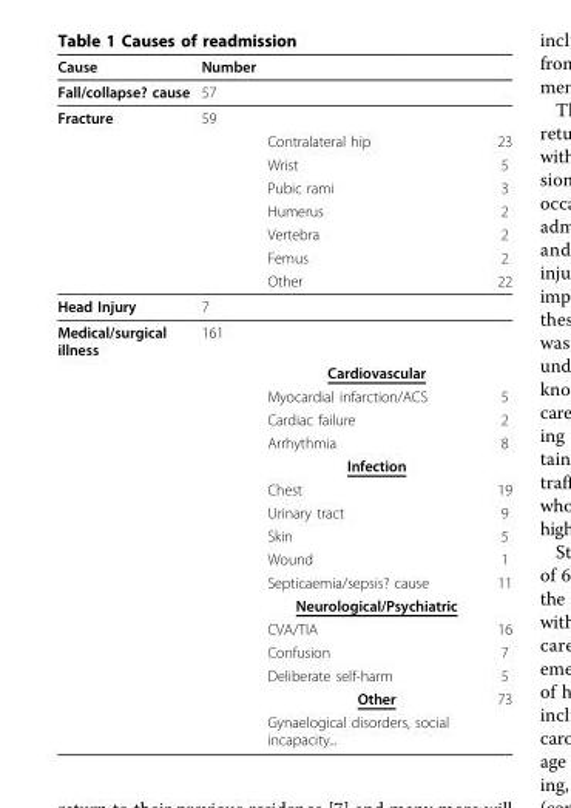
<table><thead><tr><td>Cause</td><td>Number</td><td></td><td></td></tr></thead><tbody><tr><td>Fall/collapse? cause</td><td>57</td><td></td><td></td></tr><tr><td rowspan="8">Fracture</td><td>59</td><td></td><td></td></tr><tr><td></td><td>Contralateral hip</td><td>23</td></tr><tr><td></td><td>Wrist</td><td>5</td></tr><tr><td></td><td>Pubic rami</td><td>3</td></tr><tr><td></td><td>Humerus</td><td>2</td></tr><tr><td></td><td>Vertebra</td><td>2</td></tr><tr><td></td><td>Femus</td><td>2</td></tr><tr><td></td><td>Other</td><td>22</td></tr><tr><td>Head Injury</td><td>7</td><td></td><td></td></tr><tr><td rowspan="17">Medical/surgical illness</td><td>161</td><td></td><td></td></tr><tr><td></td><td>Cardiovascular</td><td></td></tr><tr><td></td><td>Myocardial infarction/ACS</td><td>5</td></tr><tr><td></td><td>Cardiac failure</td><td>2</td></tr><tr><td></td><td>Arrhythmia</td><td>8</td></tr><tr><td></td><td>Infection</td><td></td></tr><tr><td></td><td>Chest</td><td>19</td></tr><tr><td></td><td>Urinary tract</td><td>9</td></tr><tr><td></td><td>Skin</td><td>5</td></tr><tr><td></td><td>Wound</td><td>1</td></tr><tr><td></td><td>Septicaemia/sepsis? cause</td><td>11</td></tr><tr><td></td><td>Neurological/Psychiatric</td><td></td></tr><tr><td></td><td>CVA/TIA</td><td>16</td></tr><tr><td></td><td>Confusion</td><td>7</td></tr><tr><td></td><td>Deliberate self-harm</td><td>5</td></tr><tr><td></td><td>Other</td><td>73</td></tr><tr><td></td><td>Gynaelogical disorders, social incapacity...</td><td></td></tr></tbody></table>